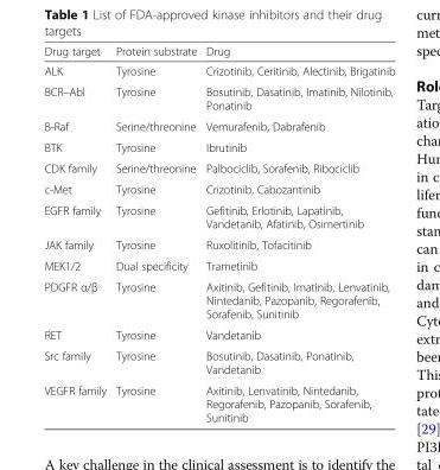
<table><thead><tr><td>Drug target</td><td>Protein substrate</td><td>Drug</td></tr></thead><tbody><tr><td>ALK</td><td>Tyrosine</td><td>Crizotinib, Ceritinib, Alectinib, Brigatinib</td></tr><tr><td>BCR–Abl</td><td>Tyrosine</td><td>Bosutinib, Dasatinib, Imatinib, Nilotinib, Ponatinib</td></tr><tr><td>B-Raf</td><td>Serine/threonine</td><td>Vemurafenib, Dabrafenib</td></tr><tr><td>BTK</td><td>Tyrosine</td><td>Ibrutinib</td></tr><tr><td>CDK family</td><td>Serine/threonine</td><td>Palbociclib, Sorafenib, Ribociclib</td></tr><tr><td>c-Met</td><td>Tyrosine</td><td>Crizotinib, Cabozantinib</td></tr><tr><td>EGFR family</td><td>Tyrosine</td><td>Gefitinib, Erlotinib, Lapatinib, Vandetanib, Afatinib, Osimertinib</td></tr><tr><td>JAK family</td><td>Tyrosine</td><td>Ruxolitinib, Tofacitinib</td></tr><tr><td>MEK1/2</td><td>Dual specificity</td><td>Trametinib</td></tr><tr><td>PDGFR α/β</td><td>Tyrosine</td><td>Axitinib, Gefitinib, Imatinib, Lenvatinib, Nintedanib, Pazopanib, Regorafenib, Sorafenib, Sunitinib</td></tr><tr><td>RET</td><td>Tyrosine</td><td>Vandetanib</td></tr><tr><td>Src family</td><td>Tyrosine</td><td>Bosutinib, Dasatinib, Ponatinib, Vandetanib</td></tr><tr><td>VEGFR family</td><td>Tyrosine</td><td>Axitinib, Lenvatinib, Nintedanib, Regorafenib, Pazopanib, Sorafenib, Sunitinib</td></tr></tbody></table>